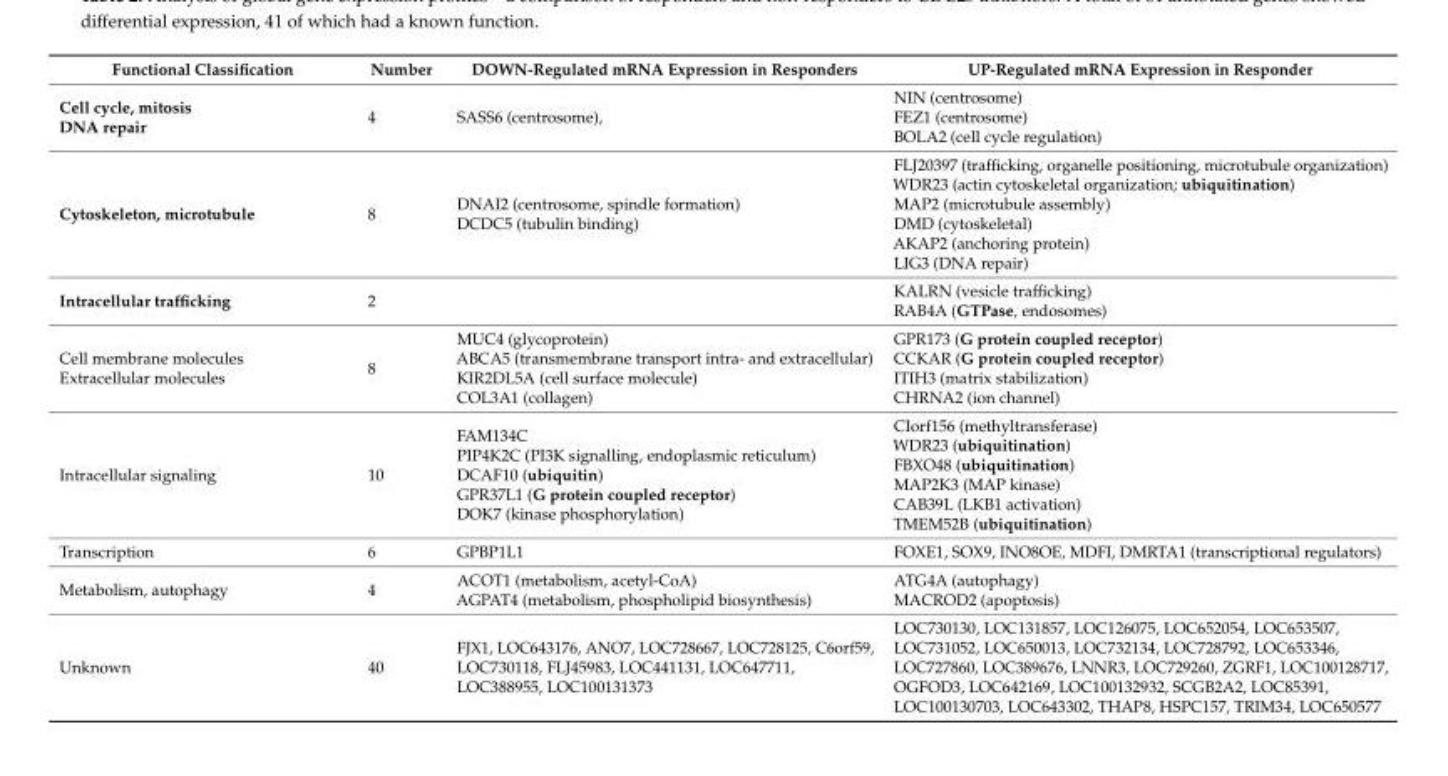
<table><thead><tr><td>Functional Classification</td><td>Number</td><td>DOWN-Regulated mRNA Expression in Responders</td><td>UP-Regulated mRNA Expression in Responder</td></tr></thead><tbody><tr><td>Cell cycle, mitosis DNA repair</td><td>4</td><td>SASS6 (centrosome),</td><td>NIN (centrosome) FEZ1 (centrosome) BOLA2 (cell cycle regulation)</td></tr><tr><td>Cytoskeleton, microtubule</td><td>8</td><td>DNAI2 (centrosome, spindle formation) DCDC5 (tubulin binding)</td><td>FLJ20397 (trafficking, organelle positioning, microtubule organization) WDR23 (actin cytoskeletal organization; ubiquitination) MAP2 (microtubule assembly) DMD (cytoskeletal) AKAP2 (anchoring protein) LIG3 (DNA repair)</td></tr><tr><td>Intracellular trafficking</td><td>2</td><td></td><td>KALRN (vesicle trafficking) RAB4A (GTPase, endosomes)</td></tr><tr><td>Cell membrane molecules Extracellular molecules</td><td>8</td><td>MUC4 (glycoprotein) ABCA5 (transmembrane transport intra- and extracellular) KIR2DL5A (cell surface molecule) COL3A1 (collagen)</td><td>GPR173 (G protein coupled receptor) CCKAR (G protein coupled receptor) ITIH3 (matrix stabilization) CHRNA2 (ion channel)</td></tr><tr><td>Intracellular signaling</td><td>10</td><td>FAM134C PIP4K2C (PI3K signalling, endoplasmic reticulum) DCAF10 (ubiquitin) GPR37L1 (G protein coupled receptor) DOK7 (kinase phosphorylation)</td><td>CIorf156 (methyltransferase) WDR23 (ubiquitination) FBXO48 (ubiquitination) MAP2K3 (MAP kinase) CAB39L (LKB1 activation) TMEM52B (ubiquitination)</td></tr><tr><td>Transcription</td><td>6</td><td>GPBP1L1</td><td>FOXE1, SOX9, INO8OE, MDFI, DMRTA1 (transcriptional regulators)</td></tr><tr><td>Metabolism, autophagy</td><td>4</td><td>ACOT1 (metabolism, acetyl-CoA) AGPAT4 (metabolism, phospholipid biosynthesis)</td><td>ATG4A (autophagy) MACROD2 (apoptosis)</td></tr><tr><td>Unknown</td><td>40</td><td>FJX1, LOC643176, ANO7, LOC728667, LOC728125, C6orf59, LOC730118, FLJ45983, LOC441131, LOC647711, LOC388955, LOC100131373</td><td>LOC730130, LOC131857, LOC126075, LOC652054, LOC653507, LOC731052, LOC650013, LOC732134, LOC728792, LOC653346, LOC727860, LOC389676, LNNR3, LOC729260, ZGRF1, LOC100128717, OGFOD3, LOC642169, LOC100132932, SCGB2A2, LOC85391, LOC100130703, LOC643302, THAP8, HSPC157, TRIM34, LOC650577</td></tr></tbody></table>